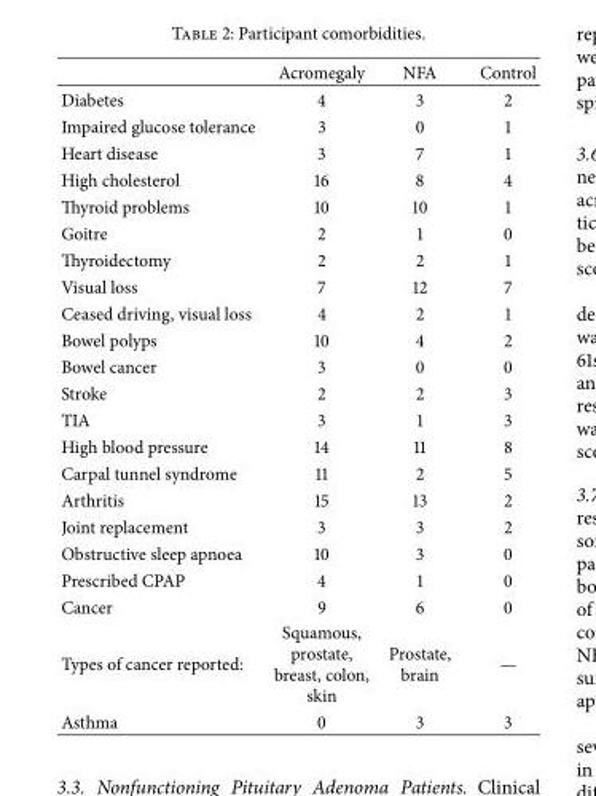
<table><thead><tr><td></td><td>Acromegaly</td><td>NFA</td><td>Control</td></tr></thead><tbody><tr><td>Diabetes</td><td>4</td><td>3</td><td>2</td></tr><tr><td>Impaired glucose tolerance</td><td>3</td><td>0</td><td>1</td></tr><tr><td>Heart disease</td><td>3</td><td>7</td><td>1</td></tr><tr><td>High cholesterol</td><td>16</td><td>8</td><td>4</td></tr><tr><td>Thyroid problems</td><td>10</td><td>10</td><td>1</td></tr><tr><td>Goitre</td><td>2</td><td>1</td><td>0</td></tr><tr><td>Thyroidectomy</td><td>2</td><td>2</td><td>1</td></tr><tr><td>Visual loss</td><td>7</td><td>12</td><td>7</td></tr><tr><td>Ceased driving, visual loss</td><td>4</td><td>2</td><td>1</td></tr><tr><td>Bowel polyps</td><td>10</td><td>4</td><td>2</td></tr><tr><td>Bowel cancer</td><td>3</td><td>0</td><td>0</td></tr><tr><td>Stroke</td><td>2</td><td>2</td><td>3</td></tr><tr><td>TIA</td><td>3</td><td>1</td><td>3</td></tr><tr><td>High blood pressure</td><td>14</td><td>11</td><td>8</td></tr><tr><td>Carpal tunnel syndrome</td><td>11</td><td>2</td><td>5</td></tr><tr><td>Arthritis</td><td>15</td><td>13</td><td>2</td></tr><tr><td>Joint replacement</td><td>3</td><td>3</td><td>2</td></tr><tr><td>Obstructive sleep apnoea</td><td>10</td><td>3</td><td>0</td></tr><tr><td>Prescribed CPAP</td><td>4</td><td>1</td><td>0</td></tr><tr><td>Cancer</td><td>9</td><td>6</td><td>0</td></tr><tr><td>Types of cancer reported:</td><td>Squamous, prostate, breast, colon, skin</td><td>Prostate, brain</td><td>—</td></tr><tr><td>Asthma</td><td>0</td><td>3</td><td>3</td></tr></tbody></table>